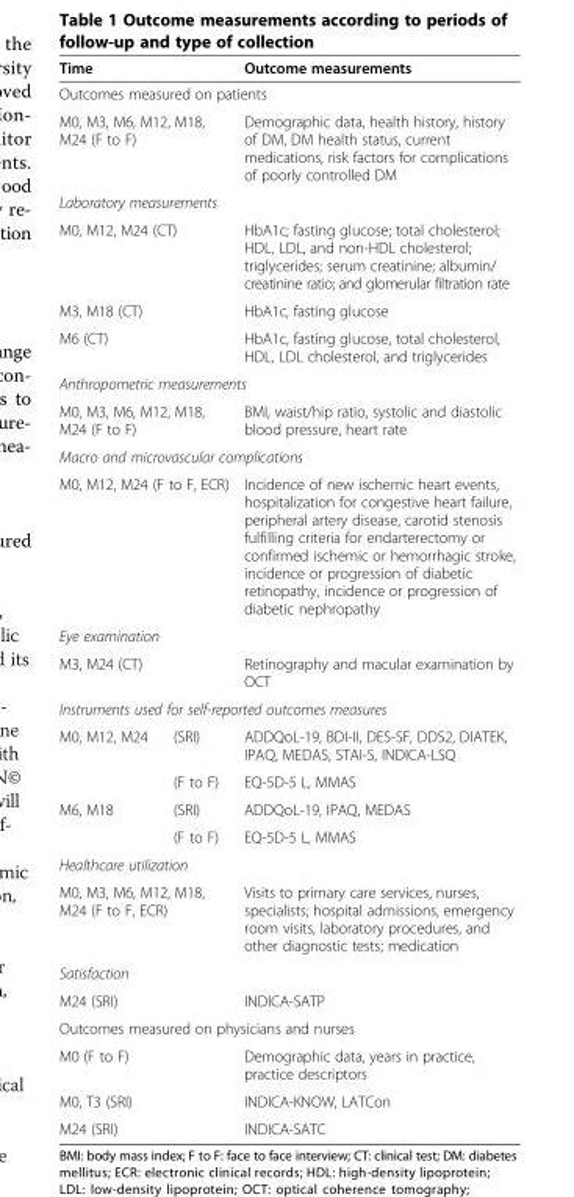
<table><thead><tr><td colspan="2">Time</td><td>Outcome measurements</td></tr></thead><tbody><tr><td colspan="3">Outcomes measured on patients</td></tr><tr><td colspan="2">M0, M3, M6, M12, M18, M24 (F to F)</td><td>Demographic data, health history, history of DM, DM health status, current medications, risk factors for complications of poorly controlled DM</td></tr><tr><td colspan="3">Laboratory measurements</td></tr><tr><td colspan="2">M0, M12, M24 (CT)</td><td>HbA1c; fasting glucose; total cholesterol; HDL, LDL, and non-HDL cholesterol; triglycerides; serum creatinine; albumin/ creatinine ratio; and glomerular filtration rate</td></tr><tr><td colspan="2">M3, M18 (CT)</td><td>HbA1c, fasting glucose</td></tr><tr><td colspan="2">M6 (CT)</td><td>HbA1c, fasting glucose, total cholesterol, HDL, LDL cholesterol, and triglycerides</td></tr><tr><td colspan="3">Anthropometric measurements</td></tr><tr><td colspan="2">M0, M3, M6, M12, M18, M24 (F to F)</td><td>BMI, waist/hip ratio, systolic and diastolic blood pressure, heart rate</td></tr><tr><td colspan="3">Macro and microvascular complications</td></tr><tr><td colspan="2">M0, M12, M24 (F to F, ECR)</td><td>Incidence of new ischemic heart events, hospitalization for congestive heart failure, peripheral artery disease, carotid stenosis fulfilling criteria for endarterectomy or confirmed ischemic or hemorrhagic stroke, incidence or progression of diabetic retinopathy, incidence or progression of diabetic nephropathy</td></tr><tr><td colspan="3">Eye examination</td></tr><tr><td colspan="2">M3, M24 (CT)</td><td>Retinography and macular examination by OCT</td></tr><tr><td colspan="3">Instruments used for self-reported outcomes measures</td></tr><tr><td rowspan="2">M0, M12, M24</td><td>(SRI)</td><td>ADDQoL-19, BDI-II, DES-SF, DDS2, DIATEK, IPAQ, MEDAS, STAI-S, INDICA-LSQ</td></tr><tr><td>(F to F)</td><td>EQ-5D-5 L, MMAS</td></tr><tr><td rowspan="2">M6, M18</td><td>(SRI)</td><td>ADDQoL-19, IPAQ, MEDAS</td></tr><tr><td>(F to F)</td><td>EQ-5D-5 L, MMAS</td></tr><tr><td colspan="3">Healthcare utilization</td></tr><tr><td colspan="2">M0, M3, M6, M12, M18, M24 (F to F, ECR)</td><td>Visits to primary care services, nurses, specialists; hospital admissions, emergency room visits, laboratory procedures, and other diagnostic tests; medication</td></tr><tr><td colspan="3">Satisfaction</td></tr><tr><td colspan="2">M24 (SRI)</td><td>INDICA-SATP</td></tr><tr><td colspan="3">Outcomes measured on physicians and nurses</td></tr><tr><td colspan="2">M0 (F to F)</td><td>Demographic data, years in practice, practice descriptors</td></tr><tr><td colspan="2">M0, T3 (SRI)</td><td>INDICA-KNOW, LATCon</td></tr><tr><td colspan="2">M24 (SRI)</td><td>INDICA-SATC</td></tr></tbody></table>